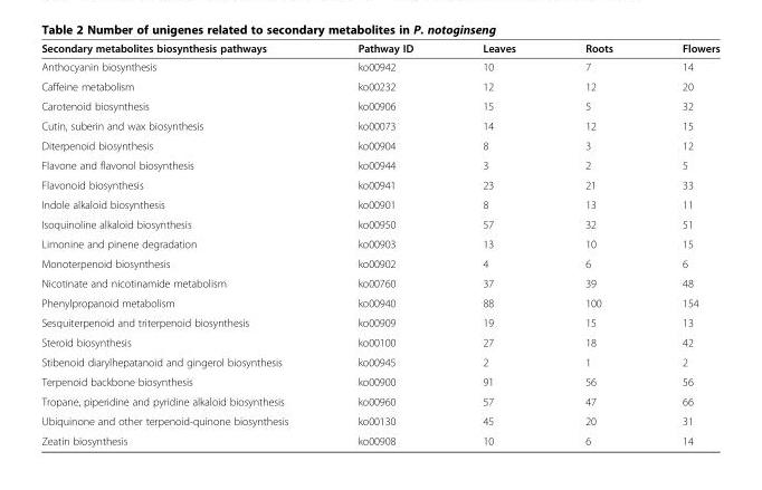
<table><thead><tr><td>Secondary metabolites biosynthesis pathways</td><td>Pathway ID</td><td>Leaves</td><td>Roots</td><td>Flowers</td></tr></thead><tbody><tr><td>Anthocyanin biosynthesis</td><td>ko00942</td><td>10</td><td>7</td><td>14</td></tr><tr><td>Caffeine metabolism</td><td>ko00232</td><td>12</td><td>12</td><td>20</td></tr><tr><td>Carotenoid biosynthesis</td><td>ko00906</td><td>15</td><td>5</td><td>32</td></tr><tr><td>Cutin, suberin and wax biosynthesis</td><td>ko00073</td><td>14</td><td>12</td><td>15</td></tr><tr><td>Diterpenoid biosynthesis</td><td>ko00904</td><td>8</td><td>3</td><td>12</td></tr><tr><td>Flavone and flavonol biosynthesis</td><td>ko00944</td><td>3</td><td>2</td><td>5</td></tr><tr><td>Flavonoid biosynthesis</td><td>ko00941</td><td>23</td><td>21</td><td>33</td></tr><tr><td>Indole alkaloid biosynthesis</td><td>ko00901</td><td>8</td><td>13</td><td>11</td></tr><tr><td>Isoquinoline alkaloid biosynthesis</td><td>ko00950</td><td>57</td><td>32</td><td>51</td></tr><tr><td>Limonine and pinene degradation</td><td>ko00903</td><td>13</td><td>10</td><td>15</td></tr><tr><td>Monoterpenoid biosynthesis</td><td>ko00902</td><td>4</td><td>6</td><td>6</td></tr><tr><td>Nicotinate and nicotinamide metabolism</td><td>ko00760</td><td>37</td><td>39</td><td>48</td></tr><tr><td>Phenylpropanoid metabolism</td><td>ko00940</td><td>88</td><td>100</td><td>154</td></tr><tr><td>Sesquiterpenoid and triterpenoid biosynthesis</td><td>ko00909</td><td>19</td><td>15</td><td>13</td></tr><tr><td>Steroid biosynthesis</td><td>ko00100</td><td>27</td><td>18</td><td>42</td></tr><tr><td>Stibenoid diarylhepatanoid and gingerol biosynthesis</td><td>ko00945</td><td>2</td><td>1</td><td>2</td></tr><tr><td>Terpenoid backbone biosynthesis</td><td>ko00900</td><td>91</td><td>56</td><td>56</td></tr><tr><td>Tropane, piperidine and pyridine alkaloid biosynthesis</td><td>ko00960</td><td>57</td><td>47</td><td>66</td></tr><tr><td>Ubiquinone and other terpenoid-quinone biosynthesis</td><td>ko00130</td><td>45</td><td>20</td><td>31</td></tr><tr><td>Zeatin biosynthesis</td><td>ko00908</td><td>10</td><td>6</td><td>14</td></tr></tbody></table>